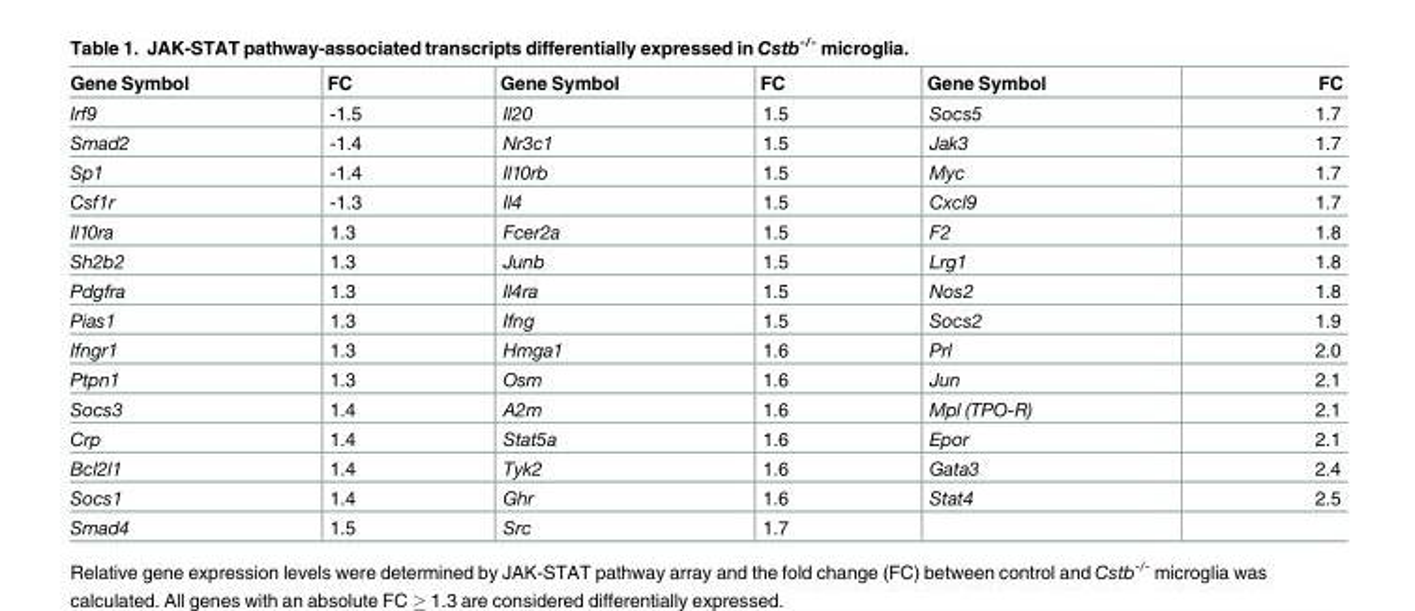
<table><thead><tr><td>Gene Symbol</td><td>FC</td><td>Gene Symbol</td><td>FC</td><td>Gene Symbol</td><td>FC</td></tr></thead><tbody><tr><td>Irf9</td><td>-1.5</td><td>Il20</td><td>1.5</td><td>Socs5</td><td>1.7</td></tr><tr><td>Smad2</td><td>-1.4</td><td>Nr3c1</td><td>1.5</td><td>Jak3</td><td>1.7</td></tr><tr><td>Sp1</td><td>-1.4</td><td>Il10rb</td><td>1.5</td><td>Myc</td><td>1.7</td></tr><tr><td>Csf1r</td><td>-1.3</td><td>Il4</td><td>1.5</td><td>Cxcl9</td><td>1.7</td></tr><tr><td>Il10ra</td><td>1.3</td><td>Fcer2a</td><td>1.5</td><td>F2</td><td>1.8</td></tr><tr><td>Sh2b2</td><td>1.3</td><td>Junb</td><td>1.5</td><td>Lrg1</td><td>1.8</td></tr><tr><td>Pdgfra</td><td>1.3</td><td>Il4ra</td><td>1.5</td><td>Nos2</td><td>1.8</td></tr><tr><td>Pias1</td><td>1.3</td><td>Ifng</td><td>1.5</td><td>Socs2</td><td>1.9</td></tr><tr><td>Ifngr1</td><td>1.3</td><td>Hmga1</td><td>1.6</td><td>Prl</td><td>2.0</td></tr><tr><td>Ptpn1</td><td>1.3</td><td>Osm</td><td>1.6</td><td>Jun</td><td>2.1</td></tr><tr><td>Socs3</td><td>1.4</td><td>A2m</td><td>1.6</td><td>Mpl (TPO-R)</td><td>2.1</td></tr><tr><td>Crp</td><td>1.4</td><td>Stat5a</td><td>1.6</td><td>Epor</td><td>2.1</td></tr><tr><td>Bcl2l1</td><td>1.4</td><td>Tyk2</td><td>1.6</td><td>Gata3</td><td>2.4</td></tr><tr><td>Socs1</td><td>1.4</td><td>Ghr</td><td>1.6</td><td>Stat4</td><td>2.5</td></tr><tr><td>Smad4</td><td>1.5</td><td>Src</td><td>1.7</td><td></td><td></td></tr></tbody></table>